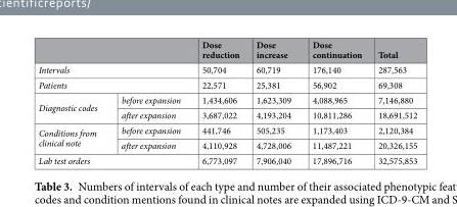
<table><thead><tr><td></td><td></td><td>Dose reduction</td><td>Dose increase</td><td>Dose continuation</td><td>Total</td></tr></thead><tbody><tr><td colspan="2">Intervals</td><td>50,704</td><td>60,719</td><td>176,140</td><td>287,563</td></tr><tr><td colspan="2">Patients</td><td>22,571</td><td>25,381</td><td>56,902</td><td>69,308</td></tr><tr><td rowspan="2">Diagnostic codes</td><td>before expansion</td><td>1,434,606</td><td>1,623,309</td><td>4,088,965</td><td>7,146,880</td></tr><tr><td>after expansion</td><td>3,687,022</td><td>4,193,204</td><td>10,811,286</td><td>18,691,512</td></tr><tr><td rowspan="2">Conditions from clinical note</td><td>before expansion</td><td>441,746</td><td>505,235</td><td>1,173,403</td><td>2,120,384</td></tr><tr><td>after expansion</td><td>4,110,928</td><td>4,728,006</td><td>11,487,221</td><td>20,326,155</td></tr><tr><td colspan="2">Lab test orders</td><td>6,773,097</td><td>7,906,040</td><td>17,896,716</td><td>32,575,853</td></tr></tbody></table>